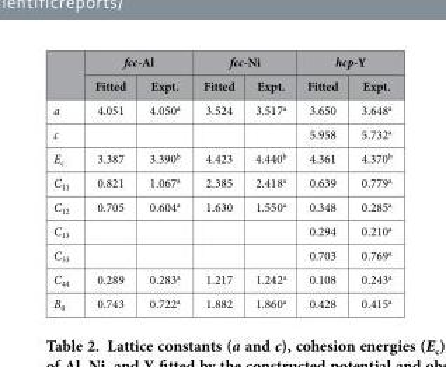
<table><thead><tr><td rowspan="2"></td><td colspan="2">fcc-Al</td><td colspan="2">fcc-Ni</td><td colspan="2">hcp-Y</td></tr><tr><td>Fitted</td><td>Expt.</td><td>Fitted</td><td>Expt.</td><td>Fitted</td><td>Expt.</td></tr></thead><tbody><tr><td>a</td><td>4.051</td><td>4.050<sup>a</sup></td><td>3.524</td><td>3.517<sup>a</sup></td><td>3.650</td><td>3.648<sup>a</sup></td></tr><tr><td>c</td><td></td><td></td><td></td><td></td><td>5.958</td><td>5.732<sup>a</sup></td></tr><tr><td>E<sub>c</sub></td><td>3.387</td><td>3.390<sup>b</sup></td><td>4.423</td><td>4.440<sup>b</sup></td><td>4.361</td><td>4.370<sup>b</sup></td></tr><tr><td>C<sub>11</sub></td><td>0.821</td><td>1.067<sup>a</sup></td><td>2.385</td><td>2.418<sup>a</sup></td><td>0.639</td><td>0.779<sup>a</sup></td></tr><tr><td>C<sub>12</sub></td><td>0.705</td><td>0.604<sup>a</sup></td><td>1.630</td><td>1.550<sup>a</sup></td><td>0.348</td><td>0.285<sup>a</sup></td></tr><tr><td>C<sub>13</sub></td><td></td><td></td><td></td><td></td><td>0.294</td><td>0.210<sup>a</sup></td></tr><tr><td>C<sub>33</sub></td><td></td><td></td><td></td><td></td><td>0.703</td><td>0.769<sup>a</sup></td></tr><tr><td>C<sub>44</sub></td><td>0.289</td><td>0.283<sup>a</sup></td><td>1.217</td><td>1.242<sup>a</sup></td><td>0.108</td><td>0.243<sup>a</sup></td></tr><tr><td>B<sub>0</sub></td><td>0.743</td><td>0.722<sup>a</sup></td><td>1.882</td><td>1.860<sup>a</sup></td><td>0.428</td><td>0.415<sup>a</sup></td></tr></tbody></table>